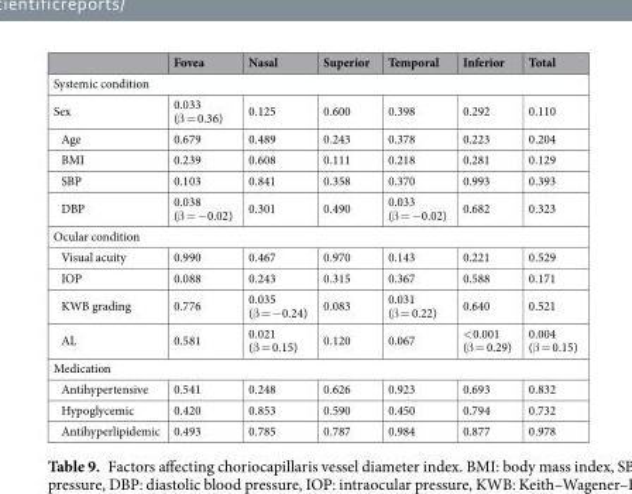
<table><thead><tr><td></td><td>Fovea</td><td>Nasal</td><td>Superior</td><td>Temporal</td><td>Inferior</td><td>Total</td></tr></thead><tbody><tr><td colspan="7">Systemic condition</td></tr><tr><td>Sex</td><td>0.033 (β = 0.36)</td><td>0.125</td><td>0.600</td><td>0.398</td><td>0.292</td><td>0.110</td></tr><tr><td>Age</td><td>0.679</td><td>0.489</td><td>0.243</td><td>0.378</td><td>0.223</td><td>0.204</td></tr><tr><td>BMI</td><td>0.239</td><td>0.608</td><td>0.111</td><td>0.218</td><td>0.281</td><td>0.129</td></tr><tr><td>SBP</td><td>0.103</td><td>0.841</td><td>0.358</td><td>0.370</td><td>0.993</td><td>0.393</td></tr><tr><td>DBP</td><td>0.038 (β = −0.02)</td><td>0.301</td><td>0.490</td><td>0.033 (β = −0.02)</td><td>0.682</td><td>0.323</td></tr><tr><td colspan="7">Ocular condition</td></tr><tr><td>Visual acuity</td><td>0.990</td><td>0.467</td><td>0.970</td><td>0.143</td><td>0.221</td><td>0.529</td></tr><tr><td>IOP</td><td>0.088</td><td>0.243</td><td>0.315</td><td>0.367</td><td>0.588</td><td>0.171</td></tr><tr><td>KWB grading</td><td>0.776</td><td>0.035 (β = −0.24)</td><td>0.083</td><td>0.031 (β = 0.22)</td><td>0.640</td><td>0.521</td></tr><tr><td>AL</td><td>0.581</td><td>0.021 (β = 0.15)</td><td>0.120</td><td>0.067</td><td>&lt;0.001 (β = 0.29)</td><td>0.004 (β = 0.15)</td></tr><tr><td colspan="7">Medication</td></tr><tr><td>Antihypertensive</td><td>0.541</td><td>0.248</td><td>0.626</td><td>0.923</td><td>0.693</td><td>0.832</td></tr><tr><td>Hypoglycemic</td><td>0.420</td><td>0.853</td><td>0.590</td><td>0.450</td><td>0.794</td><td>0.732</td></tr><tr><td>Antihyperlipidemic</td><td>0.493</td><td>0.785</td><td>0.787</td><td>0.984</td><td>0.877</td><td>0.978</td></tr></tbody></table>